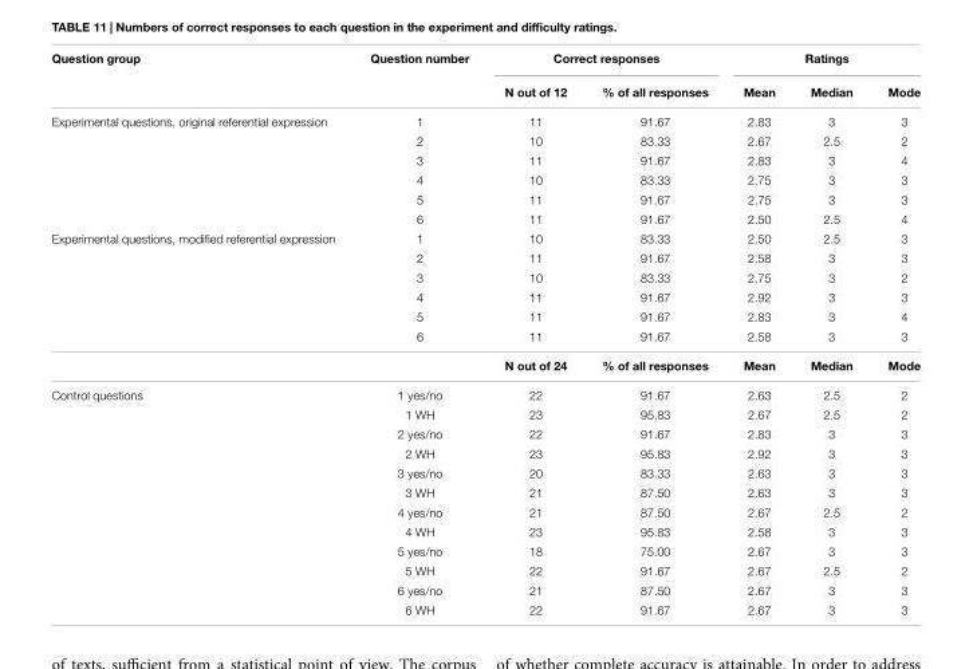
<table><thead><tr><td rowspan="2">Question group</td><td rowspan="2">Question number</td><td colspan="2">Correct responses</td><td colspan="3">Ratings</td></tr><tr><td>N out of 12</td><td>% of all responses</td><td>Mean</td><td>Median</td><td>Mode</td></tr></thead><tbody><tr><td rowspan="6">Experimental questions, original referential expression</td><td>1</td><td>11</td><td>91.67</td><td>2.83</td><td>3</td><td>3</td></tr><tr><td>2</td><td>10</td><td>83.33</td><td>2.67</td><td>2.5</td><td>2</td></tr><tr><td>3</td><td>11</td><td>91.67</td><td>2.83</td><td>3</td><td>4</td></tr><tr><td>4</td><td>10</td><td>83.33</td><td>2.75</td><td>3</td><td>3</td></tr><tr><td>5</td><td>11</td><td>91.67</td><td>2.75</td><td>3</td><td>3</td></tr><tr><td>6</td><td>11</td><td>91.67</td><td>2.50</td><td>2.5</td><td>4</td></tr><tr><td rowspan="7">Experimental questions, modified referential expression</td><td>1</td><td>10</td><td>83.33</td><td>2.50</td><td>2.5</td><td>3</td></tr><tr><td>2</td><td>11</td><td>91.67</td><td>2.58</td><td>3</td><td>3</td></tr><tr><td>3</td><td>10</td><td>83.33</td><td>2.75</td><td>3</td><td>2</td></tr><tr><td>4</td><td>11</td><td>91.67</td><td>2.92</td><td>3</td><td>3</td></tr><tr><td>5</td><td>11</td><td>91.67</td><td>2.83</td><td>3</td><td>4</td></tr><tr><td>6</td><td>11</td><td>91.67</td><td>2.58</td><td>3</td><td>3</td></tr><tr><td></td><td>N out of 24</td><td>% of all responses</td><td>Mean</td><td>Median</td><td>Mode</td></tr><tr><td rowspan="12">Control questions</td><td>1 yes/no</td><td>22</td><td>91.67</td><td>2.63</td><td>2.5</td><td>2</td></tr><tr><td>1 WH</td><td>23</td><td>95.83</td><td>2.67</td><td>2.5</td><td>2</td></tr><tr><td>2 yes/no</td><td>22</td><td>91.67</td><td>2.83</td><td>3</td><td>3</td></tr><tr><td>2 WH</td><td>23</td><td>95.83</td><td>2.92</td><td>3</td><td>3</td></tr><tr><td>3 yes/no</td><td>20</td><td>83.33</td><td>2.63</td><td>3</td><td>3</td></tr><tr><td>3 WH</td><td>21</td><td>87.50</td><td>2.63</td><td>3</td><td>3</td></tr><tr><td>4 yes/no</td><td>21</td><td>87.50</td><td>2.67</td><td>2.5</td><td>2</td></tr><tr><td>4 WH</td><td>23</td><td>95.83</td><td>2.58</td><td>3</td><td>3</td></tr><tr><td>5 yes/no</td><td>18</td><td>75.00</td><td>2.67</td><td>3</td><td>3</td></tr><tr><td>5 WH</td><td>22</td><td>91.67</td><td>2.67</td><td>2.5</td><td>2</td></tr><tr><td>6 yes/no</td><td>21</td><td>87.50</td><td>2.67</td><td>3</td><td>3</td></tr><tr><td>6 WH</td><td>22</td><td>91.67</td><td>2.67</td><td>3</td><td>3</td></tr></tbody></table>